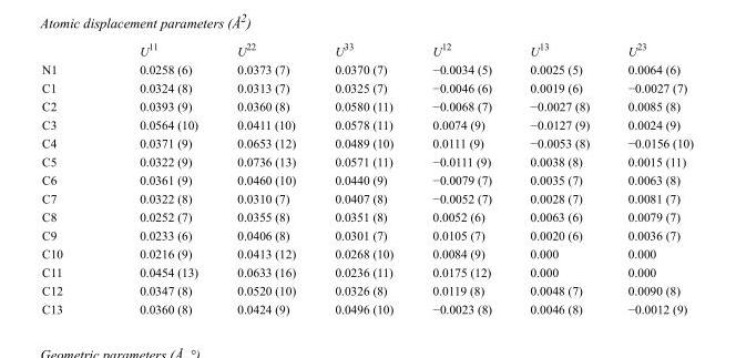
<table><thead><tr><td></td><td>U<sup>11</sup></td><td>U<sup>22</sup></td><td>U<sup>33</sup></td><td>U<sup>12</sup></td><td>U<sup>13</sup></td><td>U<sup>23</sup></td></tr></thead><tbody><tr><td>N1</td><td>0.0258 (6)</td><td>0.0373 (7)</td><td>0.0370 (7)</td><td>−0.0034 (5)</td><td>0.0025 (5)</td><td>0.0064 (6)</td></tr><tr><td>C1</td><td>0.0324 (8)</td><td>0.0313 (7)</td><td>0.0325 (7)</td><td>−0.0046 (6)</td><td>0.0019 (6)</td><td>−0.0027 (7)</td></tr><tr><td>C2</td><td>0.0393 (9)</td><td>0.0360 (8)</td><td>0.0580 (11)</td><td>−0.0068 (7)</td><td>−0.0027 (8)</td><td>0.0085 (8)</td></tr><tr><td>C3</td><td>0.0564 (10)</td><td>0.0411 (10)</td><td>0.0578 (11)</td><td>0.0074 (9)</td><td>−0.0127 (9)</td><td>0.0024 (9)</td></tr><tr><td>C4</td><td>0.0371 (9)</td><td>0.0653 (12)</td><td>0.0489 (10)</td><td>0.0111 (9)</td><td>−0.0053 (8)</td><td>−0.0156 (10)</td></tr><tr><td>C5</td><td>0.0322 (9)</td><td>0.0736 (13)</td><td>0.0571 (11)</td><td>−0.0111 (9)</td><td>0.0038 (8)</td><td>0.0015 (11)</td></tr><tr><td>C6</td><td>0.0361 (9)</td><td>0.0460 (10)</td><td>0.0440 (9)</td><td>−0.0079 (7)</td><td>0.0035 (7)</td><td>0.0063 (8)</td></tr><tr><td>C7</td><td>0.0322 (8)</td><td>0.0310 (7)</td><td>0.0407 (8)</td><td>−0.0052 (7)</td><td>0.0028 (7)</td><td>0.0081 (7)</td></tr><tr><td>C8</td><td>0.0252 (7)</td><td>0.0355 (8)</td><td>0.0351 (8)</td><td>0.0052 (6)</td><td>0.0063 (6)</td><td>0.0079 (7)</td></tr><tr><td>C9</td><td>0.0233 (6)</td><td>0.0406 (8)</td><td>0.0301 (7)</td><td>0.0105 (7)</td><td>0.0020 (6)</td><td>0.0036 (7)</td></tr><tr><td>C10</td><td>0.0216 (9)</td><td>0.0413 (12)</td><td>0.0268 (10)</td><td>0.0084 (9)</td><td>0.000</td><td>0.000</td></tr><tr><td>C11</td><td>0.0454 (13)</td><td>0.0633 (16)</td><td>0.0236 (11)</td><td>0.0175 (12)</td><td>0.000</td><td>0.000</td></tr><tr><td>C12</td><td>0.0347 (8)</td><td>0.0520 (10)</td><td>0.0326 (8)</td><td>0.0119 (8)</td><td>0.0048 (7)</td><td>0.0090 (8)</td></tr><tr><td>C13</td><td>0.0360 (8)</td><td>0.0424 (9)</td><td>0.0496 (10)</td><td>−0.0023 (8)</td><td>0.0046 (8)</td><td>−0.0012 (9)</td></tr></tbody></table>